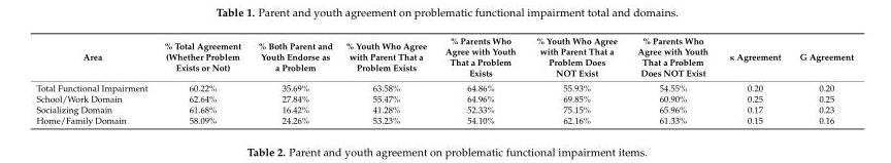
<table><thead><tr><td>Area</td><td>% Total Agreement (Whether Problem Exists or Not)</td><td>% Both Parent and Youth Endorse as a Problem</td><td>% Youth Who Agree with Parent That a Problem Exists</td><td>% Parents Who Agree with Youth That a Problem Exists</td><td>% Youth Who Agree with Parent That a Problem Does NOT Exist</td><td>% Parents Who Agree with Youth That a Problem Does NOT Exist</td><td>κ Agreement</td><td>G Agreement</td></tr></thead><tbody><tr><td>Total Functional Impairment</td><td>60.22%</td><td>35.69%</td><td>63.58%</td><td>64.86%</td><td>55.93%</td><td>54.55%</td><td>0.20</td><td>0.20</td></tr><tr><td>School/Work Domain</td><td>62.64%</td><td>27.84%</td><td>55.47%</td><td>64.96%</td><td>69.85%</td><td>60.90%</td><td>0.25</td><td>0.25</td></tr><tr><td>Socializing Domain</td><td>61.68%</td><td>16.42%</td><td>41.28%</td><td>52.33%</td><td>75.15%</td><td>65.96%</td><td>0.17</td><td>0.23</td></tr><tr><td>Home/Family Domain</td><td>58.09%</td><td>24.26%</td><td>53.23%</td><td>54.10%</td><td>62.16%</td><td>61.33%</td><td>0.15</td><td>0.16</td></tr></tbody></table>